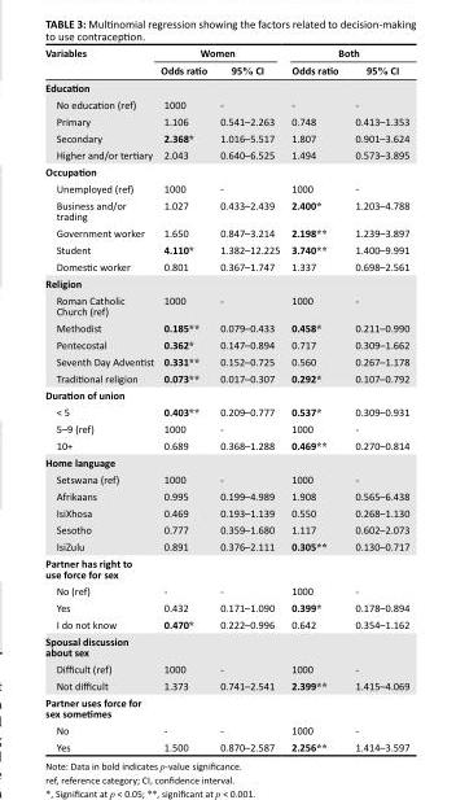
<table><thead><tr><td rowspan="2">Variables</td><td colspan="2">Women</td><td colspan="2">Both</td></tr><tr><td>Odds ratio</td><td>95% CI</td><td>Odds ratio</td><td>95% CI</td></tr></thead><tbody><tr><td colspan="5">Education</td></tr><tr><td>No education (ref)</td><td>1000</td><td>-</td><td>-</td><td>-</td></tr><tr><td>Primary</td><td>1.106</td><td>0.541–2.263</td><td>0.748</td><td>0.413–1.353</td></tr><tr><td>Secondary</td><td>2.368*</td><td>1.016–5.517</td><td>1.807</td><td>0.901–3.624</td></tr><tr><td>Higher and/or tertiary</td><td>2.043</td><td>0.640–6.525</td><td>1.494</td><td>0.573–3.895</td></tr><tr><td colspan="5">Occupation</td></tr><tr><td>Unemployed (ref)</td><td>1000</td><td>-</td><td>1000</td><td>-</td></tr><tr><td>Business and/or trading</td><td>1.027</td><td>0.433–2.439</td><td>2.400*</td><td>1.203–4.788</td></tr><tr><td>Government worker</td><td>1.650</td><td>0.847–3.214</td><td>2.198**</td><td>1.239–3.897</td></tr><tr><td>Student</td><td>4.110*</td><td>1.382–12.225</td><td>3.740**</td><td>1.400–9.991</td></tr><tr><td>Domestic worker</td><td>0.801</td><td>0.367–1.747</td><td>1.337</td><td>0.698–2.561</td></tr><tr><td colspan="5">Religion</td></tr><tr><td>Roman Catholic Church (ref)</td><td>1000</td><td>-</td><td>1000</td><td>-</td></tr><tr><td>Methodist</td><td>0.185**</td><td>0.079–0.433</td><td>0.458*</td><td>0.211–0.990</td></tr><tr><td>Pentecostal</td><td>0.362*</td><td>0.147–0.894</td><td>0.717</td><td>0.309–1.662</td></tr><tr><td>Seventh Day Adventist</td><td>0.331**</td><td>0.152–0.725</td><td>0.560</td><td>0.267–1.178</td></tr><tr><td>Traditional religion</td><td>0.073**</td><td>0.017–0.307</td><td>0.292*</td><td>0.107–0.792</td></tr><tr><td colspan="5">Duration of union</td></tr><tr><td>&lt; 5</td><td>0.403**</td><td>0.209–0.777</td><td>0.537*</td><td>0.309–0.931</td></tr><tr><td>5–9 (ref)</td><td>1000</td><td>-</td><td>1000</td><td>-</td></tr><tr><td>10+</td><td>0.689</td><td>0.368–1.288</td><td>0.469**</td><td>0.270–0.814</td></tr><tr><td colspan="5">Home language</td></tr><tr><td>Setswana (ref)</td><td>1000</td><td>-</td><td>1000</td><td>-</td></tr><tr><td>Afrikaans</td><td>0.995</td><td>0.199–4.989</td><td>1.908</td><td>0.565–6.438</td></tr><tr><td>IsiXhosa</td><td>0.469</td><td>0.193–1.139</td><td>0.550</td><td>0.268–1.130</td></tr><tr><td>Sesotho</td><td>0.777</td><td>0.359–1.680</td><td>1.117</td><td>0.602–2.073</td></tr><tr><td>IsiZulu</td><td>0.891</td><td>0.376–2.111</td><td>0.305**</td><td>0.130–0.717</td></tr><tr><td colspan="5">Partner has right to use force for sex</td></tr><tr><td>No (ref)</td><td>-</td><td>-</td><td>1000</td><td>-</td></tr><tr><td>Yes</td><td>0.432</td><td>0.171–1.090</td><td>0.399*</td><td>0.178–0.894</td></tr><tr><td>I do not know</td><td>0.470*</td><td>0.222–0.996</td><td>0.642</td><td>0.354–1.162</td></tr><tr><td colspan="5">Spousal discussion about sex</td></tr><tr><td>Difficult (ref)</td><td>1000</td><td>-</td><td>1000</td><td>-</td></tr><tr><td>Not difficult</td><td>1.373</td><td>0.741–2.541</td><td>2.399**</td><td>1.415–4.069</td></tr><tr><td colspan="5">Partner uses force for sex sometimes</td></tr><tr><td>No</td><td>-</td><td>-</td><td>1000</td><td>-</td></tr><tr><td>Yes</td><td>1.500</td><td>0.870–2.587</td><td>2.256**</td><td>1.414–3.597</td></tr></tbody></table>